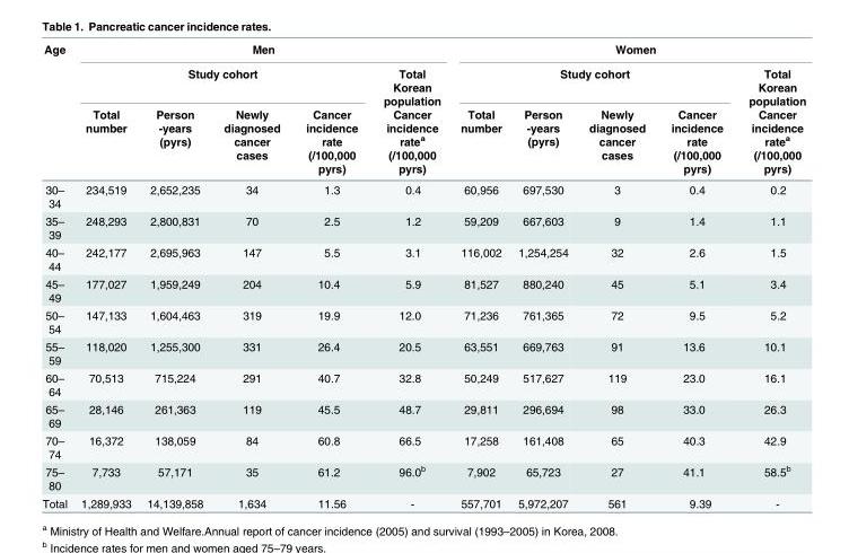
<table><thead><tr><td rowspan="3">Age</td><td colspan="5">Men</td><td colspan="5">Women</td></tr><tr><td colspan="4">Study cohort</td><td rowspan="2">Total Korean population Cancer incidence rate<sup>a</sup> (/100,000 pyrs)</td><td colspan="4">Study cohort</td><td rowspan="2">Total Korean population Cancer incidence rate<sup>a</sup> (/100,000 pyrs)</td></tr><tr><td>Total number</td><td>Person -years (pyrs)</td><td>Newly diagnosed cancer cases</td><td>Cancer incidence rate (/100,000 pyrs)</td><td>Total number</td><td>Person -years (pyrs)</td><td>Newly diagnosed cancer cases</td><td>Cancer incidence rate (/100,000 pyrs)</td></tr></thead><tbody><tr><td>30– 34</td><td>234,519</td><td>2,652,235</td><td>34</td><td>1.3</td><td>0.4</td><td>60,956</td><td>697,530</td><td>3</td><td>0.4</td><td>0.2</td></tr><tr><td>35– 39</td><td>248,293</td><td>2,800,831</td><td>70</td><td>2.5</td><td>1.2</td><td>59,209</td><td>667,603</td><td>9</td><td>1.4</td><td>1.1</td></tr><tr><td>40– 44</td><td>242,177</td><td>2,695,963</td><td>147</td><td>5.5</td><td>3.1</td><td>116,002</td><td>1,254,254</td><td>32</td><td>2.6</td><td>1.5</td></tr><tr><td>45– 49</td><td>177,027</td><td>1,959,249</td><td>204</td><td>10.4</td><td>5.9</td><td>81,527</td><td>880,240</td><td>45</td><td>5.1</td><td>3.4</td></tr><tr><td>50– 54</td><td>147,133</td><td>1,604,463</td><td>319</td><td>19.9</td><td>12.0</td><td>71,236</td><td>761,365</td><td>72</td><td>9.5</td><td>5.2</td></tr><tr><td>55– 59</td><td>118,020</td><td>1,255,300</td><td>331</td><td>26.4</td><td>20.5</td><td>63,551</td><td>669,763</td><td>91</td><td>13.6</td><td>10.1</td></tr><tr><td>60– 64</td><td>70,513</td><td>715,224</td><td>291</td><td>40.7</td><td>32.8</td><td>50,249</td><td>517,627</td><td>119</td><td>23.0</td><td>16.1</td></tr><tr><td>65– 69</td><td>28,146</td><td>261,363</td><td>119</td><td>45.5</td><td>48.7</td><td>29,811</td><td>296,694</td><td>98</td><td>33.0</td><td>26.3</td></tr><tr><td>70– 74</td><td>16,372</td><td>138,059</td><td>84</td><td>60.8</td><td>66.5</td><td>17,258</td><td>161,408</td><td>65</td><td>40.3</td><td>42.9</td></tr><tr><td>75– 80</td><td>7,733</td><td>57,171</td><td>35</td><td>61.2</td><td>96.0<sup>b</sup></td><td>7,902</td><td>65,723</td><td>27</td><td>41.1</td><td>58.5<sup>b</sup></td></tr><tr><td>Total</td><td>1,289,933</td><td>14,139,858</td><td>1,634</td><td>11.56</td><td>-</td><td>557,701</td><td>5,972,207</td><td>561</td><td>9.39</td><td>-</td></tr></tbody></table>